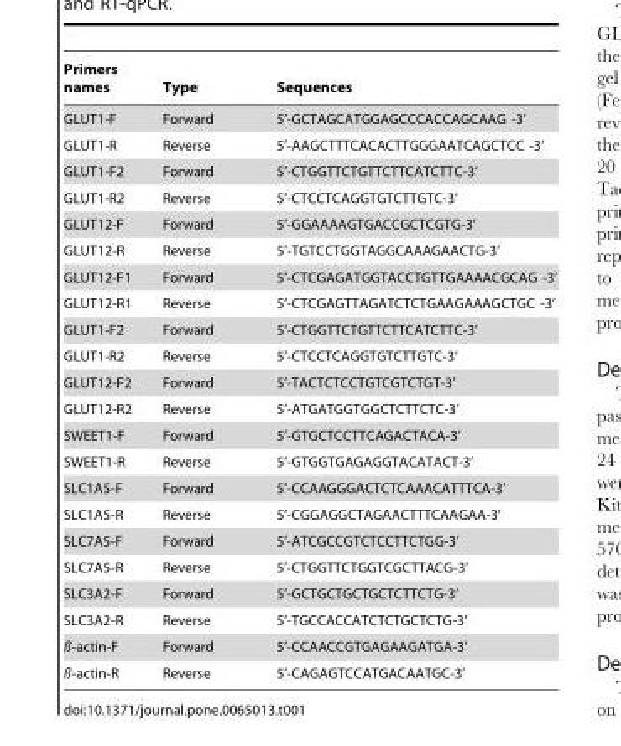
<table><thead><tr><td>Primers names</td><td>Type</td><td>Sequences</td></tr></thead><tbody><tr><td>GLUT1-F</td><td>Forward</td><td>5’-GCTAGCATGGAGCCCACCAGCAAG -3’</td></tr><tr><td>GLUT1-R</td><td>Reverse</td><td>5’-AAGCTTTCACACTTGGGAATCAGCTCC -3’</td></tr><tr><td>GLUT1-F2</td><td>Forward</td><td>5’-CTGGTTCTGTTCTTCATCTTC-3’</td></tr><tr><td>GLUT1-R2</td><td>Reverse</td><td>5’-CTCCTCAGGTGTCTTGTC-3’</td></tr><tr><td>GLUT12-F</td><td>Forward</td><td>5’-GGAAAAGTGACCGCTCGTG-3’</td></tr><tr><td>GLUT12-R</td><td>Reverse</td><td>5’-TGTCCTGGTAGGCAAAGAACTG-3’</td></tr><tr><td>GLUT12-F1</td><td>Forward</td><td>5’-CTCGAGATGGTACCTGTTGAAAACGCAG -3’</td></tr><tr><td>GLUT12-R1</td><td>Reverse</td><td>5’-CTCGAGTTAGATCTCTGAAGAAAGCTGC -3’</td></tr><tr><td>GLUT1-F2</td><td>Forward</td><td>5’-CTGGTTCTGTTCTTCATCTTC-3’</td></tr><tr><td>GLUT1-R2</td><td>Reverse</td><td>5’-CTCCTCAGGTGTCTTGTC-3’</td></tr><tr><td>GLUT12-F2</td><td>Forward</td><td>5’-TACTCTCCTGTCGTCTGT-3’</td></tr><tr><td>GLUT12-R2</td><td>Reverse</td><td>5’-ATGATGGTGGCTCTTCTC-3’</td></tr><tr><td>SWEET1-F</td><td>Forward</td><td>5’-GTGCTCCTTCAGACTACA-3’</td></tr><tr><td>SWEET1-R</td><td>Reverse</td><td>5’-GTGGTGAGAGGTACATACT-3’</td></tr><tr><td>SLC1A5-F</td><td>Forward</td><td>5’-CCAAGGGACTCTCAAACATTTCA-3’</td></tr><tr><td>SLC1A5-R</td><td>Reverse</td><td>5’-CGGAGGCTAGAACTTTCAAGAA-3’</td></tr><tr><td>SLC7A5-F</td><td>Forward</td><td>5’-ATCGCCGTCTCCTTCTGG-3’</td></tr><tr><td>SLC7A5-R</td><td>Reverse</td><td>5’-CTGGTTCTGGTCGCTTACG-3’</td></tr><tr><td>SLC3A2-F</td><td>Forward</td><td>5’-GCTGCTGCTGCTCTTCTG-3’</td></tr><tr><td>SLC3A2-R</td><td>Reverse</td><td>5’-TGCCACCATCTCTGCTCTG-3’</td></tr><tr><td>ß-actin-F</td><td>Forward</td><td>5’-CCAACCGTGAGAAGATGA-3’</td></tr><tr><td>ß-actin-R</td><td>Reverse</td><td>5’-CAGAGTCCATGACAATGC-3’</td></tr></tbody></table>